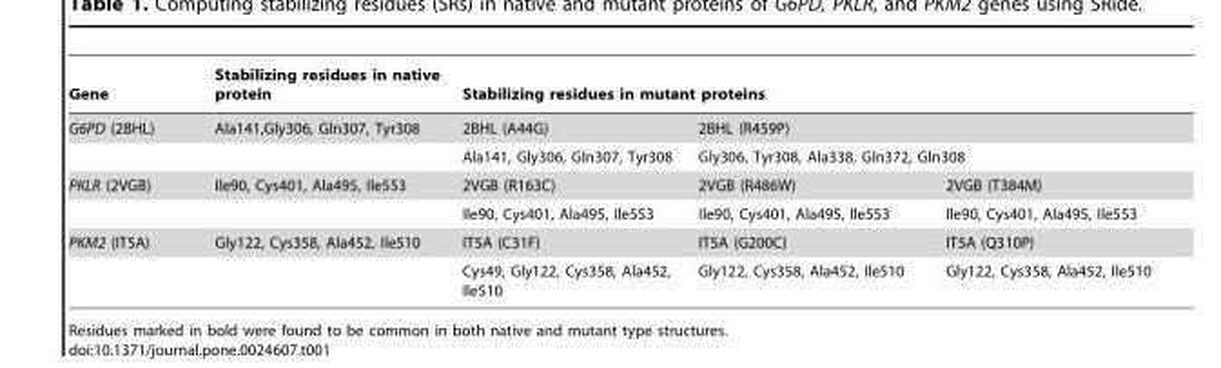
<table><thead><tr><td rowspan="4">Gene G6PD (2BHL) PKLR (2VGB)</td><td rowspan="4">Stabilizing residues in native protein Ala141,Gly306, Gln307, Tyr308 Ile90, Cys401, Ala495, Ile553</td><td colspan="3">Stabilizing residues in mutant proteins</td></tr><tr><td rowspan="3">2BHL (A44G) Ala141, Gly306, Gln307, Tyr308 2VGB (R163C)</td><td rowspan="2" colspan="2">2BHL (R459P) Gly306, Tyr308, Ala338, Gln372, Gln308</td></tr><tr></tr><tr><td>2VGB (R486W)</td><td>2VGB (T384M)</td></tr></thead><tbody><tr><td></td><td></td><td>Ile90, Cys401, Ala495, Ile553</td><td>Ile90, Cys401, Ala495, Ile553</td><td>Ile90, Cys401, Ala495, Ile553</td></tr><tr><td rowspan="2">PKM2 (IT5A)</td><td>Gly122, Cys358, Ala452, Ile510</td><td>IT5A (C31F)</td><td>IT5A (G200C)</td><td>IT5A (Q310P)</td></tr><tr><td></td><td>Cys49, Gly122, Cys358, Ala452, Ile510</td><td>Gly122, Cys358, Ala452, Ile510</td><td>Gly122, Cys358, Ala452, Ile510</td></tr></tbody></table>